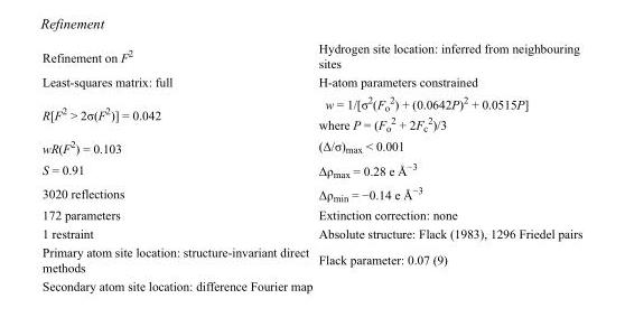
<table><tbody><tr><td>Refinement on F<sup>2</sup></td><td>Hydrogen site location: inferred from neighbouring sites</td></tr><tr><td>Least-squares matrix: full</td><td>H-atom parameters constrained</td></tr><tr><td>R[F<sup>2</sup> &gt; 2σ(F<sup>2</sup>)] = 0.042</td><td>w = 1/[σ<sup>2</sup>(F<sub>o</sub> <sup>2</sup>) + (0.0642P)<sup>2</sup> + 0.0515P] where P = (F<sub>o</sub> <sup>2</sup> + 2F<sub>c</sub> <sup>2</sup>)/3</td></tr><tr><td>wR(F<sup>2</sup>) = 0.103</td><td>(Δ/σ)<sub>max</sub> &lt; 0.001</td></tr><tr><td>S = 0.91</td><td>Δρ<sub>max</sub> = 0.28 e Å<sup>−3</sup></td></tr><tr><td>3020 reflections</td><td>Δρ<sub>min</sub> = −0.14 e Å<sup>−3</sup></td></tr><tr><td>172 parameters</td><td>Extinction correction: none</td></tr><tr><td>1 restraint</td><td>Absolute structure: Flack (1983), 1296 Friedel pairs</td></tr><tr><td>Primary atom site location: structure-invariant direct methods</td><td>Flack parameter: 0.07 (9)</td></tr><tr><td>Secondary atom site location: difference Fourier map</td><td></td></tr></tbody></table>